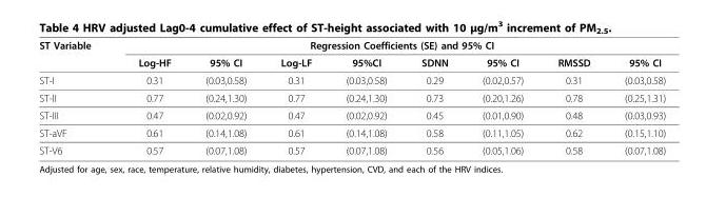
<table><thead><tr><td rowspan="2">ST Variable</td><td colspan="8">Regression Coefficients (SE) and 95% CI</td></tr><tr><td>Log-HF</td><td>95% CI</td><td>Log-LF</td><td>95%CI</td><td>SDNN</td><td>95% CI</td><td>RMSSD</td><td>95% CI</td></tr></thead><tbody><tr><td>ST-I</td><td>0.31</td><td>(0.03,0.58)</td><td>0.31</td><td>(0.03,0.58)</td><td>0.29</td><td>(0.02,0.57)</td><td>0.31</td><td>(0.03,0.58)</td></tr><tr><td>ST-II</td><td>0.77</td><td>(0.24,1.30)</td><td>0.77</td><td>(0.24,1.30)</td><td>0.73</td><td>(0.20,1.26)</td><td>0.78</td><td>(0.25,1.31)</td></tr><tr><td>ST-III</td><td>0.47</td><td>(0.02,0.92)</td><td>0.47</td><td>(0.02,0.92)</td><td>0.45</td><td>(0.01,0.90)</td><td>0.48</td><td>(0.03,0.93)</td></tr><tr><td>ST-aVF</td><td>0.61</td><td>(0.14,1.08)</td><td>0.61</td><td>(0.14,1.08)</td><td>0.58</td><td>(0.11,1.05)</td><td>0.62</td><td>(0.15,1.10)</td></tr><tr><td>ST-V6</td><td>0.57</td><td>(0.07,1.08)</td><td>0.57</td><td>(0.07,1.08)</td><td>0.56</td><td>(0.05,1.06)</td><td>0.58</td><td>(0.07,1.08)</td></tr></tbody></table>